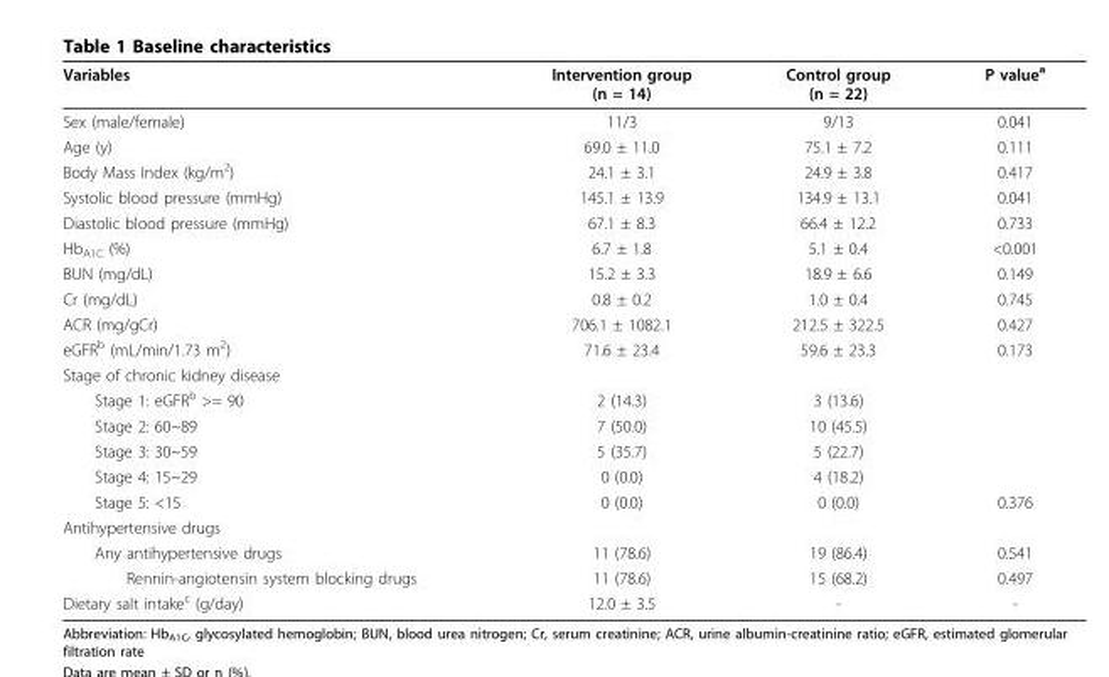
<table><thead><tr><td>Variables</td><td>Intervention group (n = 14)</td><td>Control group (n = 22)</td><td>P value<sup>a</sup></td></tr></thead><tbody><tr><td>Sex (male/female)</td><td>11/3</td><td>9/13</td><td>0.041</td></tr><tr><td>Age (y)</td><td>69.0 ± 11.0</td><td>75.1 ± 7.2</td><td>0.111</td></tr><tr><td>Body Mass Index (kg/m<sup>2</sup>)</td><td>24.1 ± 3.1</td><td>24.9 ± 3.8</td><td>0.417</td></tr><tr><td>Systolic blood pressure (mmHg)</td><td>145.1 ± 13.9</td><td>134.9 ± 13.1</td><td>0.041</td></tr><tr><td>Diastolic blood pressure (mmHg)</td><td>67.1 ± 8.3</td><td>66.4 ± 12.2</td><td>0.733</td></tr><tr><td>Hb<sub>A1C</sub> (%)</td><td>6.7 ± 1.8</td><td>5.1 ± 0.4</td><td>&lt;0.001</td></tr><tr><td>BUN (mg/dL)</td><td>15.2 ± 3.3</td><td>18.9 ± 6.6</td><td>0.149</td></tr><tr><td>Cr (mg/dL)</td><td>0.8 ± 0.2</td><td>1.0 ± 0.4</td><td>0.745</td></tr><tr><td>ACR (mg/gCr)</td><td>706.1 ± 1082.1</td><td>212.5 ± 322.5</td><td>0.427</td></tr><tr><td>eGFR<sup>b</sup> (mL/min/1.73 m<sup>2</sup>)</td><td>71.6 ± 23.4</td><td>59.6 ± 23.3</td><td>0.173</td></tr><tr><td colspan="4">Stage of chronic kidney disease</td></tr><tr><td>Stage 1: eGFR<sup>b</sup> &gt;= 90</td><td>2 (14.3)</td><td>3 (13.6)</td><td></td></tr><tr><td>Stage 2: 60~89</td><td>7 (50.0)</td><td>10 (45.5)</td><td></td></tr><tr><td>Stage 3: 30~59</td><td>5 (35.7)</td><td>5 (22.7)</td><td></td></tr><tr><td>Stage 4: 15~29</td><td>0 (0.0)</td><td>4 (18.2)</td><td></td></tr><tr><td>Stage 5: &lt;15</td><td>0 (0.0)</td><td>0 (0.0)</td><td>0.376</td></tr><tr><td colspan="4">Antihypertensive drugs</td></tr><tr><td>Any antihypertensive drugs</td><td>11 (78.6)</td><td>19 (86.4)</td><td>0.541</td></tr><tr><td>Rennin-angiotensin system blocking drugs</td><td>11 (78.6)</td><td>15 (68.2)</td><td>0.497</td></tr><tr><td>Dietary salt intake<sup>c</sup> (g/day)</td><td>12.0 ± 3.5</td><td>-</td><td>-</td></tr></tbody></table>